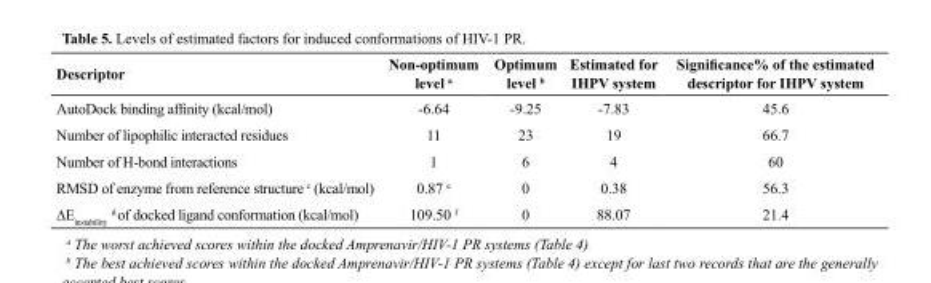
<table><thead><tr><td>Descriptor</td><td>Non-optimum level a</td><td>Optimum level b</td><td>Estimated for IHPV system</td><td>Significance% of the estimated descriptor for IHPV system</td></tr></thead><tbody><tr><td>AutoDock binding affinity (kcal/mol)</td><td>-6.64</td><td>-9.25</td><td>-7.83</td><td>45.6</td></tr><tr><td>Number of lipophilic interacted residues</td><td>11</td><td>23</td><td>19</td><td>66.7</td></tr><tr><td>Number of H-bond interactions</td><td>1</td><td>6</td><td>4</td><td>60</td></tr><tr><td>RMSD of enzyme from reference structure c (kcal/mol)</td><td>0.87 e</td><td>0</td><td>0.38</td><td>56.3</td></tr><tr><td>∆E<sub>instability</sub> d of docked ligand conformation (kcal/mol)</td><td>109.50 f</td><td>0</td><td>88.07</td><td>21.4</td></tr></tbody></table>